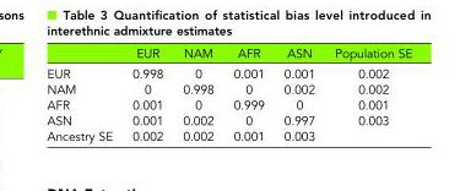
<table><thead><tr><td></td><td>EUR</td><td>NAM</td><td>AFR</td><td>ASN</td><td>Population SE</td></tr></thead><tbody><tr><td>EUR</td><td>0.998</td><td>0</td><td>0.001</td><td>0.001</td><td>0.002</td></tr><tr><td>NAM</td><td>0</td><td>0.998</td><td>0</td><td>0.002</td><td>0.002</td></tr><tr><td>AFR</td><td>0.001</td><td>0</td><td>0.999</td><td>0</td><td>0.001</td></tr><tr><td>ASN</td><td>0.001</td><td>0.002</td><td>0</td><td>0.997</td><td>0.003</td></tr><tr><td>Ancestry SE</td><td>0.002</td><td>0.002</td><td>0.001</td><td>0.003</td><td></td></tr></tbody></table>